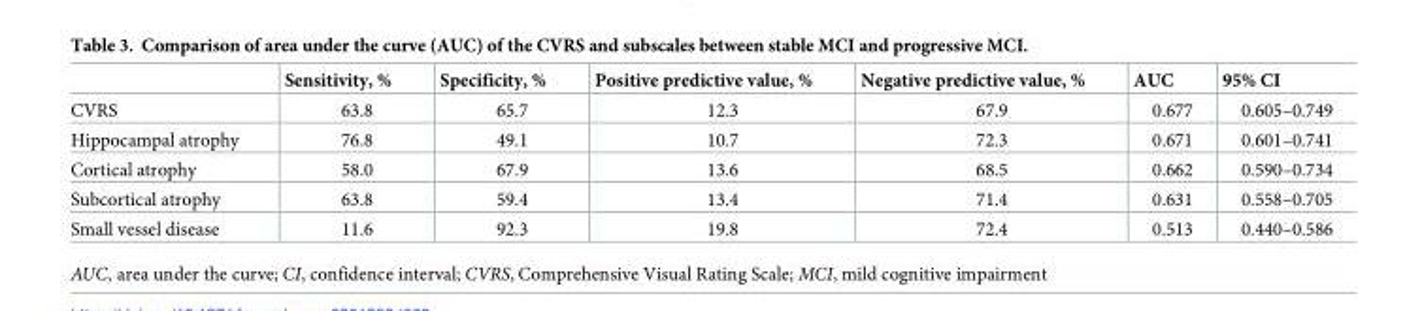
<table><thead><tr><td></td><td>Sensitivity, %</td><td>Specificity, %</td><td>Positive predictive value, %</td><td>Negative predictive value, %</td><td>AUC</td><td>95% CI</td></tr></thead><tbody><tr><td>CVRS</td><td>63.8</td><td>65.7</td><td>12.3</td><td>67.9</td><td>0.677</td><td>0.605–0.749</td></tr><tr><td>Hippocampal atrophy</td><td>76.8</td><td>49.1</td><td>10.7</td><td>72.3</td><td>0.671</td><td>0.601–0.741</td></tr><tr><td>Cortical atrophy</td><td>58.0</td><td>67.9</td><td>13.6</td><td>68.5</td><td>0.662</td><td>0.590–0.734</td></tr><tr><td>Subcortical atrophy</td><td>63.8</td><td>59.4</td><td>13.4</td><td>71.4</td><td>0.631</td><td>0.558–0.705</td></tr><tr><td>Small vessel disease</td><td>11.6</td><td>92.3</td><td>19.8</td><td>72.4</td><td>0.513</td><td>0.440–0.586</td></tr></tbody></table>